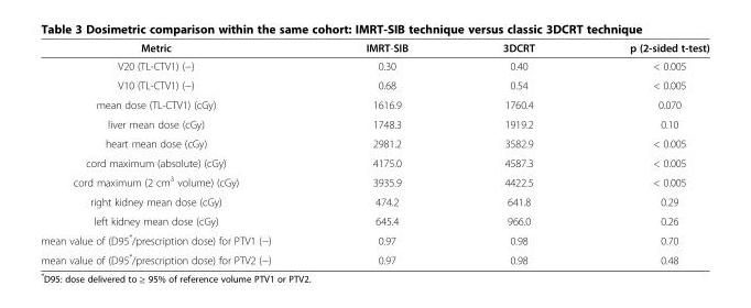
<table><thead><tr><td>Metric</td><td>IMRT-SIB</td><td>3DCRT</td><td>p (2-sided t-test)</td></tr></thead><tbody><tr><td>V20 (TL-CTV1) (−)</td><td>0.30</td><td>0.40</td><td>&lt; 0.005</td></tr><tr><td>V10 (TL-CTV1) (−)</td><td>0.68</td><td>0.54</td><td>&lt; 0.005</td></tr><tr><td>mean dose (TL-CTV1) (cGy)</td><td>1616.9</td><td>1760.4</td><td>0.070</td></tr><tr><td>liver mean dose (cGy)</td><td>1748.3</td><td>1919.2</td><td>0.10</td></tr><tr><td>heart mean dose (cGy)</td><td>2981.2</td><td>3582.9</td><td>&lt; 0.005</td></tr><tr><td>cord maximum (absolute) (cGy)</td><td>4175.0</td><td>4587.3</td><td>&lt; 0.005</td></tr><tr><td>cord maximum (2 cm<sup>3</sup> volume) (cGy)</td><td>3935.9</td><td>4422.5</td><td>&lt; 0.005</td></tr><tr><td>right kidney mean dose (cGy)</td><td>474.2</td><td>641.8</td><td>0.29</td></tr><tr><td>left kidney mean dose (cGy)</td><td>645.4</td><td>966.0</td><td>0.26</td></tr><tr><td>mean value of (D95*/prescription dose) for PTV1 (−)</td><td>0.97</td><td>0.98</td><td>0.70</td></tr><tr><td>mean value of (D95*/prescription dose) for PTV2 (−)</td><td>0.97</td><td>0.98</td><td>0.48</td></tr></tbody></table>